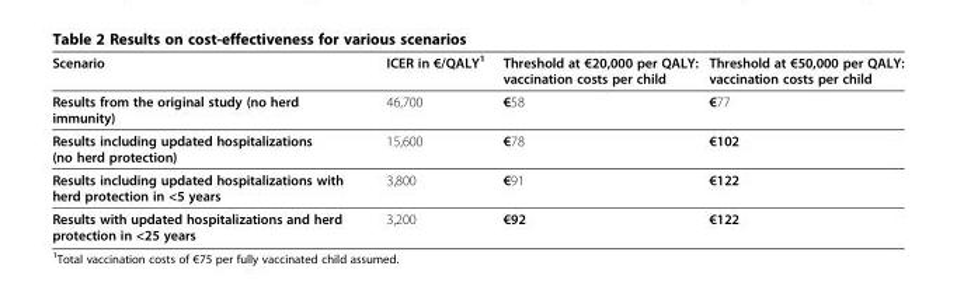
<table><thead><tr><td>Scenario</td><td>ICER in €/QALY<sup>1</sup></td><td>Threshold at €20,000 per QALY: vaccination costs per child</td><td>Threshold at €50,000 per QALY: vaccination costs per child</td></tr></thead><tbody><tr><td>Results from the original study (no herd immunity)</td><td>46,700</td><td>€58</td><td>€77</td></tr><tr><td>Results including updated hospitalizations (no herd protection)</td><td>15,600</td><td>€78</td><td>€102</td></tr><tr><td>Results including updated hospitalizations with herd protection in &lt;5 years</td><td>3,800</td><td>€91</td><td>€122</td></tr><tr><td>Results with updated hospitalizations and herd protection in &lt;25 years</td><td>3,200</td><td>€92</td><td>€122</td></tr></tbody></table>